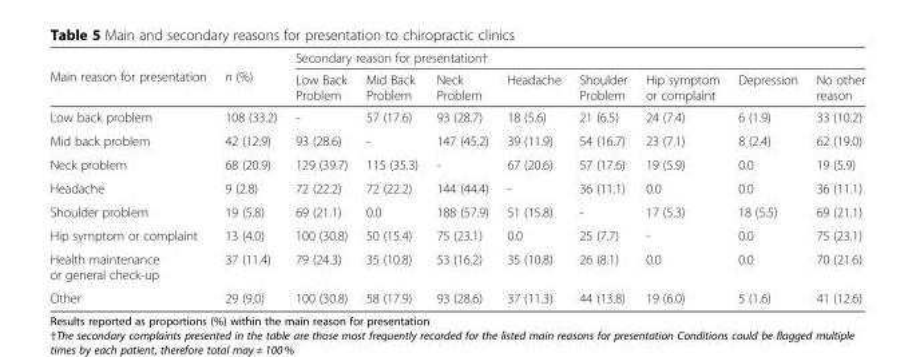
<table><thead><tr><td rowspan="2">Main reason for presentation</td><td rowspan="2">n (%)</td><td colspan="8">Secondary reason for presentation†</td></tr><tr><td>Low Back Problem</td><td>Mid Back Problem</td><td>Neck Problem</td><td>Headache</td><td>Shoulder Problem</td><td>Hip symptom or complaint</td><td>Depression</td><td>No other reason</td></tr></thead><tbody><tr><td>Low back problem</td><td>108 (33.2)</td><td>-</td><td>57 (17.6)</td><td>93 (28.7)</td><td>18 (5.6)</td><td>21 (6.5)</td><td>24 (7.4)</td><td>6 (1.9)</td><td>33 (10.2)</td></tr><tr><td>Mid back problem</td><td>42 (12.9)</td><td>93 (28.6)</td><td>-</td><td>147 (45.2)</td><td>39 (11.9)</td><td>54 (16.7)</td><td>23 (7.1)</td><td>8 (2.4)</td><td>62 (19.0)</td></tr><tr><td>Neck problem</td><td>68 (20.9)</td><td>129 (39.7)</td><td>115 (35.3)</td><td>-</td><td>67 (20.6)</td><td>57 (17.6)</td><td>19 (5.9)</td><td>0.0</td><td>19 (5.9)</td></tr><tr><td>Headache</td><td>9 (2.8)</td><td>72 (22.2)</td><td>72 (22.2)</td><td>144 (44.4)</td><td>-</td><td>36 (11.1)</td><td>0.0</td><td>0.0</td><td>36 (11.1)</td></tr><tr><td>Shoulder problem</td><td>19 (5.8)</td><td>69 (21.1)</td><td>0.0</td><td>188 (57.9)</td><td>51 (15.8)</td><td>-</td><td>17 (5.3)</td><td>18 (5.5)</td><td>69 (21.1)</td></tr><tr><td>Hip symptom or complaint</td><td>13 (4.0)</td><td>100 (30.8)</td><td>50 (15.4)</td><td>75 (23.1)</td><td>0.0</td><td>25 (7.7)</td><td>-</td><td>0.0</td><td>75 (23.1)</td></tr><tr><td>Health maintenance or general check-up</td><td>37 (11.4)</td><td>79 (24.3)</td><td>35 (10.8)</td><td>53 (16.2)</td><td>35 (10.8)</td><td>26 (8.1)</td><td>0.0</td><td>0.0</td><td>70 (21.6)</td></tr><tr><td>Other</td><td>29 (9.0)</td><td>100 (30.8)</td><td>58 (17.9)</td><td>93 (28.6)</td><td>37 (11.3)</td><td>44 (13.8)</td><td>19 (6.0)</td><td>5 (1.6)</td><td>41 (12.6)</td></tr></tbody></table>